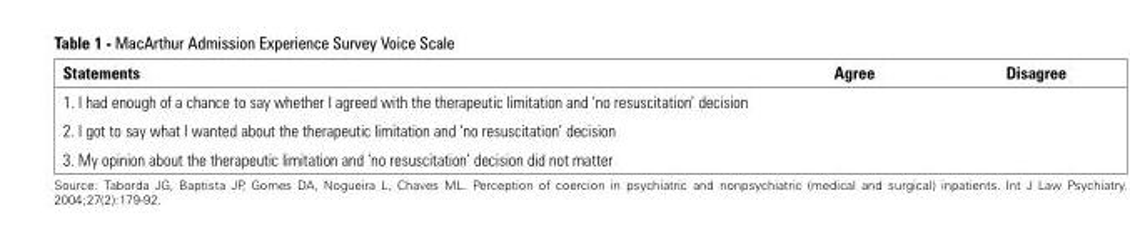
<table><thead><tr><td>Statements</td><td>Agree</td><td>Disagree</td></tr></thead><tbody><tr><td colspan="3">1. I had enough of a chance to say whether I agreed with the therapeutic limitation and ‘no resuscitation’ decision</td></tr><tr><td colspan="3">2. I got to say what I wanted about the therapeutic limitation and ‘no resuscitation’ decision</td></tr><tr><td>3. My opinion about the therapeutic limitation and ‘no resuscitation’ decision did not matter</td><td></td><td></td></tr></tbody></table>